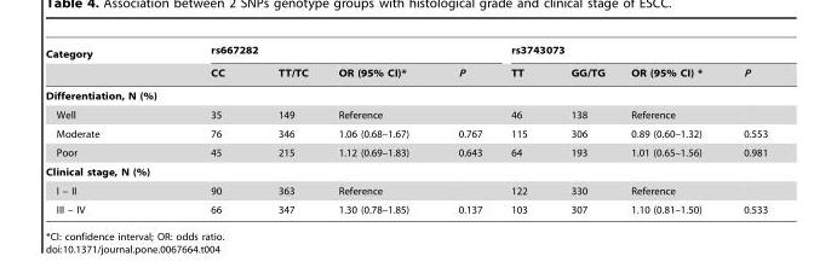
<table><thead><tr><td rowspan="2">Category</td><td colspan="4">rs667282</td><td colspan="4">rs3743073</td></tr><tr><td>CC</td><td>TT/TC</td><td>OR (95% CI)*</td><td>P</td><td>TT</td><td>GG/TG</td><td>OR (95% CI) *</td><td>P</td></tr></thead><tbody><tr><td colspan="9">Differentiation, N (%)</td></tr><tr><td>Well</td><td>35</td><td>149</td><td>Reference</td><td></td><td>46</td><td>138</td><td>Reference</td><td></td></tr><tr><td>Moderate</td><td>76</td><td>346</td><td>1.06 (0.68–1.67)</td><td>0.767</td><td>115</td><td>306</td><td>0.89 (0.60–1.32)</td><td>0.553</td></tr><tr><td>Poor</td><td>45</td><td>215</td><td>1.12 (0.69–1.83)</td><td>0.643</td><td>64</td><td>193</td><td>1.01 (0.65–1.56)</td><td>0.981</td></tr><tr><td colspan="9">Clinical stage, N (%)</td></tr><tr><td>I – II</td><td>90</td><td>363</td><td>Reference</td><td></td><td>122</td><td>330</td><td>Reference</td><td></td></tr><tr><td>III – IV</td><td>66</td><td>347</td><td>1.30 (0.78–1.85)</td><td>0.137</td><td>103</td><td>307</td><td>1.10 (0.81–1.50)</td><td>0.533</td></tr></tbody></table>